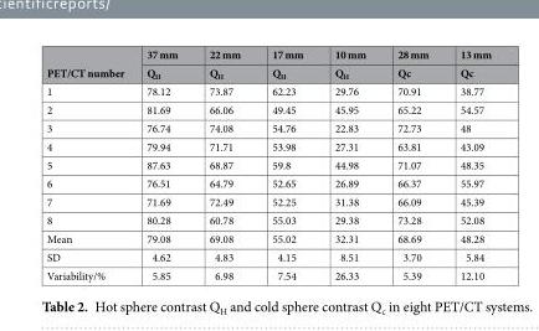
<table><thead><tr><td rowspan="2">PET/CT number</td><td rowspan="2">37 mm Q<sub>H</sub></td><td rowspan="2">22 mm Q<sub>H</sub></td><td rowspan="2">17 mm Q<sub>H</sub></td><td rowspan="2">10 mm Q<sub>H</sub></td><td rowspan="2">28 mm Qc</td><td rowspan="2">13 mm Qc</td></tr><tr></tr></thead><tbody><tr><td>1</td><td>78.12</td><td>73.87</td><td>62.23</td><td>29.76</td><td>70.91</td><td>38.77</td></tr><tr><td>2</td><td>81.69</td><td>66.06</td><td>49.45</td><td>45.95</td><td>65.22</td><td>54.57</td></tr><tr><td>3</td><td>76.74</td><td>74.08</td><td>54.76</td><td>22.83</td><td>72.73</td><td>48</td></tr><tr><td>4</td><td>79.94</td><td>71.71</td><td>53.98</td><td>27.31</td><td>63.81</td><td>43.09</td></tr><tr><td>5</td><td>87.63</td><td>68.87</td><td>59.8</td><td>44.98</td><td>71.07</td><td>48.35</td></tr><tr><td>6</td><td>76.51</td><td>64.79</td><td>52.65</td><td>26.89</td><td>66.37</td><td>55.97</td></tr><tr><td>7</td><td>71.69</td><td>72.49</td><td>52.25</td><td>31.38</td><td>66.09</td><td>45.39</td></tr><tr><td>8</td><td>80.28</td><td>60.78</td><td>55.03</td><td>29.38</td><td>73.28</td><td>52.08</td></tr><tr><td>Mean</td><td>79.08</td><td>69.08</td><td>55.02</td><td>32.31</td><td>68.69</td><td>48.28</td></tr><tr><td>SD</td><td>4.62</td><td>4.83</td><td>4.15</td><td>8.51</td><td>3.70</td><td>5.84</td></tr><tr><td>Variability/%</td><td>5.85</td><td>6.98</td><td>7.54</td><td>26.33</td><td>5.39</td><td>12.10</td></tr></tbody></table>